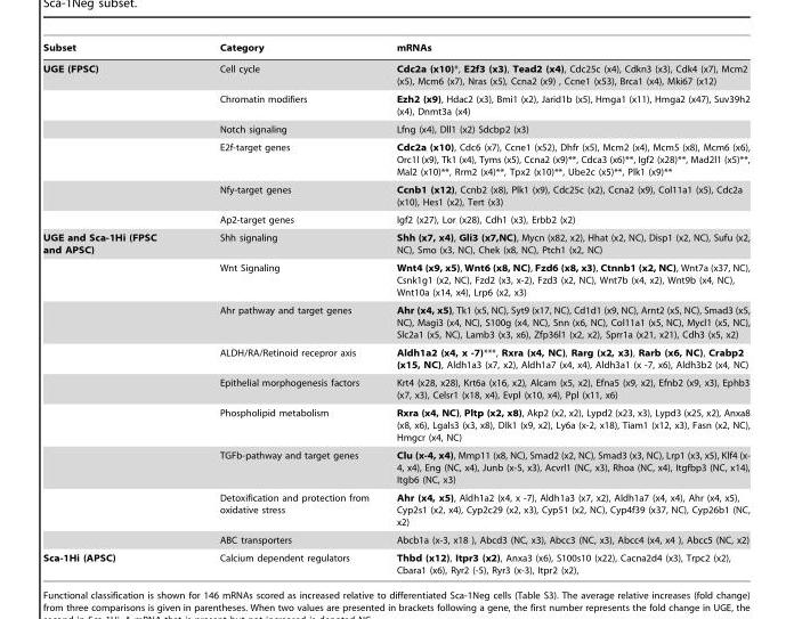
<table><thead><tr><td>Subset</td><td>Category</td><td>mRNAs</td></tr></thead><tbody><tr><td rowspan="6">UGE (FPSC)</td><td>Cell cycle</td><td>Cdc2a (x10)*, E2f3 (x3), Tead2 (x4), Cdc25c (x4), Cdkn3 (x3), Cdk4 (x7), Mcm2 (x5), Mcm6 (x7), Nras (x5), Ccna2 (x9) , Ccne1 (x53), Brca1 (x4), Mki67 (x12)</td></tr><tr><td>Chromatin modifiers</td><td>Ezh2 (x9), Hdac2 (x3), Bmi1 (x2), Jarid1b (x5), Hmga1 (x11), Hmga2 (x47), Suv39h2 (x4), Dnmt3a (x4)</td></tr><tr><td>Notch signaling</td><td>Lfng (x4), Dll1 (x2) Sdcbp2 (x3)</td></tr><tr><td>E2f-target genes</td><td>Cdc2a (x10), Cdc6 (x7), Ccne1 (x52), Dhfr (x5), Mcm2 (x4), Mcm5 (x8), Mcm6 (x6), Orc1l (x9), Tk1 (x4), Tyms (x5), Ccna2 (x9)**, Cdca3 (x6)**, Igf2 (x28)**, Mad2l1 (x5)**, Mal2 (x10)**, Rrm2 (x4)**, Tpx2 (x10)**, Ube2c (x5)**, Plk1 (x9)**</td></tr><tr><td>Nfy-target genes</td><td>Ccnb1 (x12), Ccnb2 (x8), Plk1 (x9), Cdc25c (x2), Ccna2 (x9), Col11a1 (x5), Cdc2a (x10), Hes1 (x2), Tert (x3)</td></tr><tr><td>Ap2-target genes</td><td>Igf2 (x27), Lor (x28), Cdh1 (x3), Erbb2 (x2)</td></tr><tr><td rowspan="9">UGE and Sca-1Hi (FPSC and APSC)</td><td>Shh signaling</td><td>Shh (x7, x4), Gli3 (x7,NC), Mycn (x82, x2), Hhat (x2, NC), Disp1 (x2, NC), Sufu (x2, NC), Smo (x3, NC), Chek (x8, NC), Ptch1 (x2, NC)</td></tr><tr><td>Wnt Signaling</td><td>Wnt4 (x9, x5), Wnt6 (x8, NC), Fzd6 (x8, x3), Ctnnb1 (x2, NC), Wnt7a (x37, NC), Csnk1g1 (x2, NC), Fzd2 (x3, x-2), Fzd3 (x2, NC), Wnt7b (x4, x2), Wnt9b (x4, NC), Wnt10a (x14, x4), Lrp6 (x2, x3)</td></tr><tr><td>Ahr pathway and target genes</td><td>Ahr (x4, x5), Tk1 (x5, NC), Syt9 (x17, NC), Cd1d1 (x9, NC), Arnt2 (x5, NC), Smad3 (x5, NC), Magi3 (x4, NC), S100g (x4, NC), Snn (x6, NC), Col11a1 (x5, NC), Mycl1 (x5, NC), Slc2a1 (x5, NC), Lamb3 (x3, x6), Zfp36l1 (x2, x2), Sprr1a (x21, x21), Cdh3 (x5, x2)</td></tr><tr><td>ALDH/RA/Retinoid recepror axis</td><td>Aldh1a2 (x4, x -7)***, Rxra (x4, NC), Rarg (x2, x3), Rarb (x6, NC), Crabp2 (x15, NC), Aldh1a3 (x7, x2), Aldh1a7 (x4, x4), Aldh3a1 (x -7, x6), Aldh3b2 (x4, NC)</td></tr><tr><td>Epithelial morphogenesis factors</td><td>Krt4 (x28, x28), Krt6a (x16, x2), Alcam (x5, x2), Efna5 (x9, x2), Efnb2 (x9, x3), Ephb3 (x7, x3), Celsr1 (x18, x4), Evpl (x10, x4), Ppl (x11, x6)</td></tr><tr><td>Phospholipid metabolism</td><td>Rxra (x4, NC), Pltp (x2, x8), Akp2 (x2, x2), Lypd2 (x23, x3), Lypd3 (x25, x2), Anxa8 (x8, x6), Lgals3 (x3, x8), Dlk1 (x9, x2), Ly6a (x-2, x18), Tiam1 (x12, x3), Fasn (x2, NC), Hmgcr (x4, NC)</td></tr><tr><td>TGFb-pathway and target genes</td><td>Clu (x-4, x4), Mmp11 (x8, NC), Smad2 (x2, NC), Smad3 (x3, NC), Lrp1 (x3, x5), Klf4 (x- 4, x4), Eng (NC, x4), Junb (x-5, x3), Acvrl1 (NC, x3), Rhoa (NC, x4), Itgfbp3 (NC, x14), Itgb6 (NC, x3)</td></tr><tr><td>Detoxification and protection from oxidative stress</td><td>Ahr (x4, x5), Aldh1a2 (x4, x -7), Aldh1a3 (x7, x2), Aldh1a7 (x4, x4), Ahr (x4, x5), Cyp2s1 (x2, x4), Cyp2c29 (x2, x3), Cyp51 (x2, NC), Cyp4f39 (x37, NC), Cyp26b1 (NC, x2)</td></tr><tr><td>ABC transporters</td><td>Abcb1a (x-3, x18 ), Abcd3 (NC, x3), Abcc3 (NC, x3), Abcc4 (x4, x4 ), Abcc5 (NC, x2)</td></tr><tr><td>Sca-1Hi (APSC)</td><td>Calcium dependent regulators</td><td>Thbd (x12), Itpr3 (x2), Anxa3 (x6), S100s10 (x22), Cacna2d4 (x3), Trpc2 (x2), Cbara1 (x6), Ryr2 (-5), Ryr3 (x-3), Itpr2 (x2),</td></tr></tbody></table>